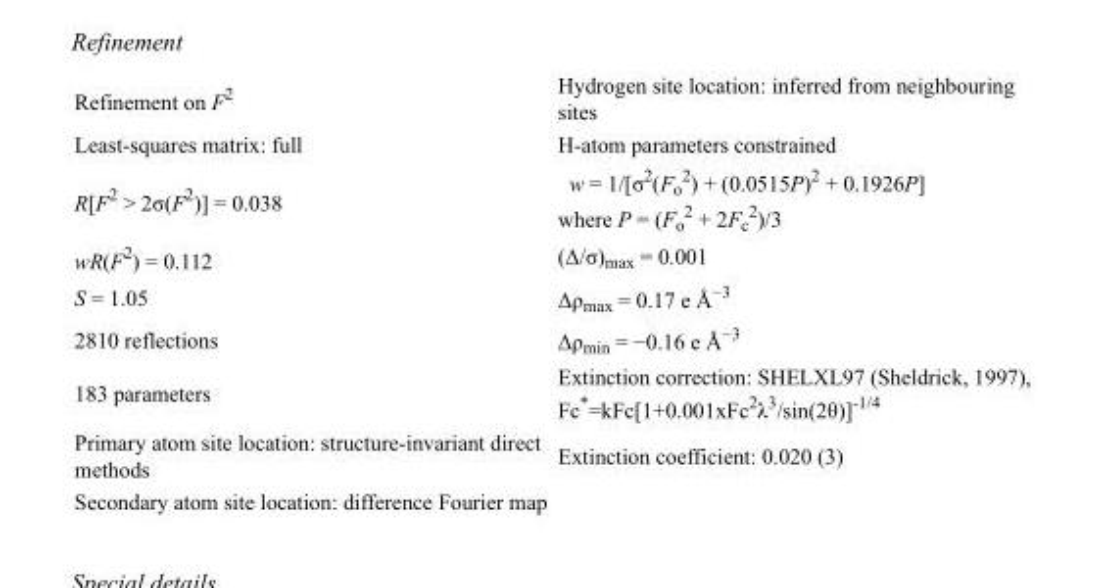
<table><tbody><tr><td>Refinement on F<sup>2</sup></td><td>Hydrogen site location: inferred from neighbouring sites</td></tr><tr><td>Least-squares matrix: full</td><td>H-atom parameters constrained</td></tr><tr><td>R[F<sup>2</sup> &gt; 2σ(F<sup>2</sup>)] = 0.038</td><td>w = 1/[σ<sup>2</sup>(F<sub>o</sub> <sup>2</sup>) + (0.0515P)<sup>2</sup> + 0.1926P] where P = (F<sub>o</sub> <sup>2</sup> + 2F<sub>c</sub> <sup>2</sup>)/3</td></tr><tr><td>wR(F<sup>2</sup>) = 0.112</td><td>(Δ/σ)<sub>max</sub> = 0.001</td></tr><tr><td>S = 1.05</td><td>Δρ<sub>max</sub> = 0.17 e Å<sup>−3</sup></td></tr><tr><td>2810 reflections</td><td>Δρ<sub>min</sub> = −0.16 e Å<sup>−3</sup></td></tr><tr><td>183 parameters</td><td>Extinction correction: SHELXL97 (Sheldrick, 1997), Fc*=kFc[1+0.001xFc<sup>2</sup>λ<sup>3</sup>/sin(2θ)]<sup>-1/4</sup></td></tr><tr><td>Primary atom site location: structure-invariant direct methods</td><td>Extinction coefficient: 0.020 (3)</td></tr><tr><td>Secondary atom site location: difference Fourier map</td><td></td></tr></tbody></table>